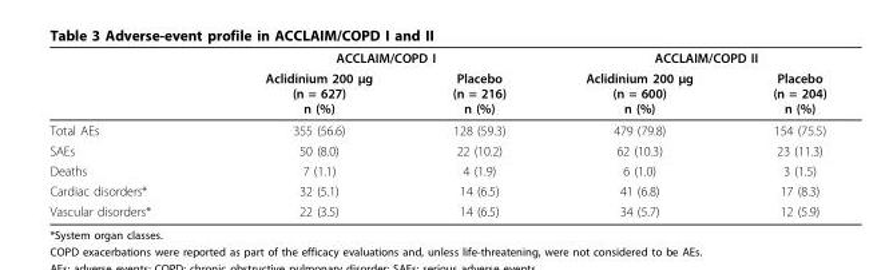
<table><thead><tr><td rowspan="2"></td><td colspan="2">ACCLAIM/COPD I</td><td colspan="2">ACCLAIM/COPD II</td></tr><tr><td>Aclidinium 200 μg (n = 627) n (%)</td><td>Placebo (n = 216) n (%)</td><td>Aclidinium 200 μg (n = 600) n (%)</td><td>Placebo (n = 204) n (%)</td></tr></thead><tbody><tr><td>Total AEs</td><td>355 (56.6)</td><td>128 (59.3)</td><td>479 (79.8)</td><td>154 (75.5)</td></tr><tr><td>SAEs</td><td>50 (8.0)</td><td>22 (10.2)</td><td>62 (10.3)</td><td>23 (11.3)</td></tr><tr><td>Deaths</td><td>7 (1.1)</td><td>4 (1.9)</td><td>6 (1.0)</td><td>3 (1.5)</td></tr><tr><td>Cardiac disorders*</td><td>32 (5.1)</td><td>14 (6.5)</td><td>41 (6.8)</td><td>17 (8.3)</td></tr><tr><td>Vascular disorders*</td><td>22 (3.5)</td><td>14 (6.5)</td><td>34 (5.7)</td><td>12 (5.9)</td></tr></tbody></table>